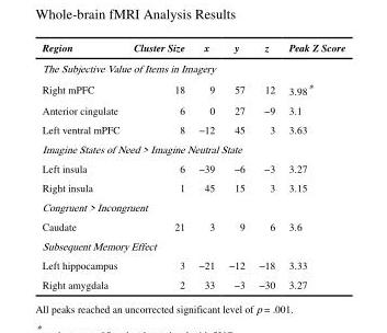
<table><thead><tr><td>Region</td><td>Cluster Size</td><td>x</td><td>y</td><td>z</td><td>Peak Z Score</td></tr></thead><tbody><tr><td colspan="6">The Subjective Value of Items in Imagery</td></tr><tr><td>Right mPFC</td><td>18</td><td>9</td><td>57</td><td>12</td><td>3.98*</td></tr><tr><td>Anterior cingulate</td><td>6</td><td>0</td><td>27</td><td>−9</td><td>3.1</td></tr><tr><td>Left ventral mPFC</td><td>8</td><td>−12</td><td>45</td><td>3</td><td>3.63</td></tr><tr><td colspan="6">Imagine States of Need &gt; Imagine Neutral State</td></tr><tr><td>Left insula</td><td>6</td><td>−39</td><td>−6</td><td>−3</td><td>3.27</td></tr><tr><td>Right insula</td><td>1</td><td>45</td><td>15</td><td>3</td><td>3.15</td></tr><tr><td colspan="6">Congruent &gt; Incongruent</td></tr><tr><td>Caudate</td><td>21</td><td>3</td><td>9</td><td>6</td><td>3.6</td></tr><tr><td colspan="6">Subsequent Memory Effect</td></tr><tr><td>Left hippocampus</td><td>3</td><td>−21</td><td>−12</td><td>−18</td><td>3.33</td></tr><tr><td>Right amygdala</td><td>2</td><td>33</td><td>−3</td><td>−30</td><td>3.27</td></tr></tbody></table>